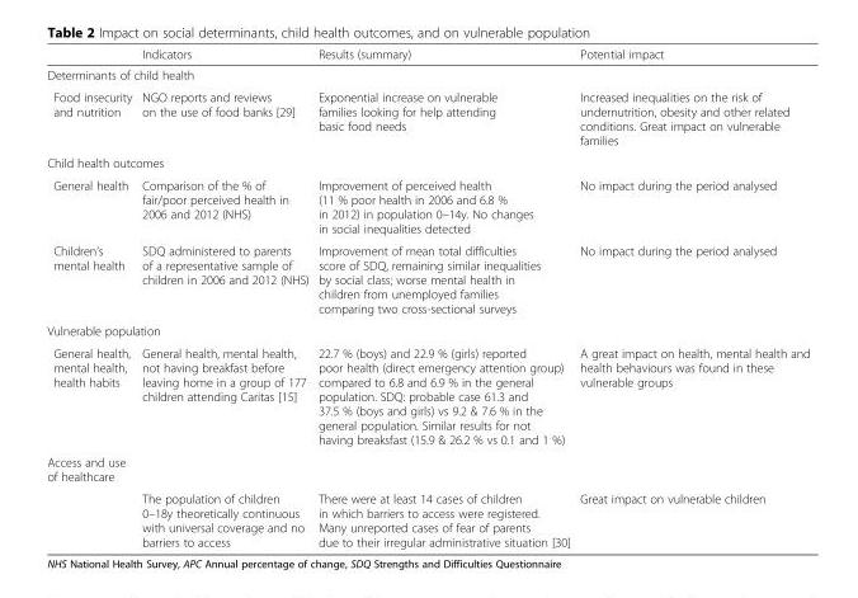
<table><thead><tr><td></td><td>Indicators</td><td>Results (summary)</td><td>Potential impact</td></tr></thead><tbody><tr><td colspan="4">Determinants of child health</td></tr><tr><td>Food insecurity and nutrition</td><td>NGO reports and reviews on the use of food banks [29]</td><td>Exponential increase on vulnerable families looking for help attending basic food needs</td><td>Increased inequalities on the risk of undernutrition, obesity and other related conditions. Great impact on vulnerable families</td></tr><tr><td colspan="4">Child health outcomes</td></tr><tr><td>General health</td><td>Comparison of the % of fair/poor perceived health in 2006 and 2012 (NHS)</td><td>Improvement of perceived health (11 % poor health in 2006 and 6.8 % in 2012) in population 0–14y. No changes in social inequalities detected</td><td>No impact during the period analysed</td></tr><tr><td>Children’s mental health</td><td>SDQ administered to parents of a representative sample of children in 2006 and 2012 (NHS)</td><td>Improvement of mean total difficulties score of SDQ, remaining similar inequalities by social class; worse mental health in children from unemployed families comparing two cross-sectional surveys</td><td>No impact during the period analysed</td></tr><tr><td colspan="4">Vulnerable population</td></tr><tr><td>General health, mental health, health habits</td><td>General health, mental health, not having breakfast before leaving home in a group of 177 children attending Caritas [15]</td><td>22.7 % (boys) and 22.9 % (girls) reported poor health (direct emergency attention group) compared to 6.8 and 6.9 % in the general population. SDQ: probable case 61.3 and 37.5 % (boys and girls) vs 9.2 &amp; 7.6 % in the general population. Similar results for not having breaksfast (15.9 &amp; 26.2 % vs 0.1 and 1 %)</td><td>A great impact on health, mental health and health behaviours was found in these vulnerable groups</td></tr><tr><td colspan="4">Access and use of healthcare</td></tr><tr><td></td><td>The population of children 0–18y theoretically continuous with universal coverage and no barriers to access</td><td>There were at least 14 cases of children in which barriers to access were registered. Many unreported cases of fear of parents due to their irregular administrative situation [30]</td><td>Great impact on vulnerable children</td></tr></tbody></table>